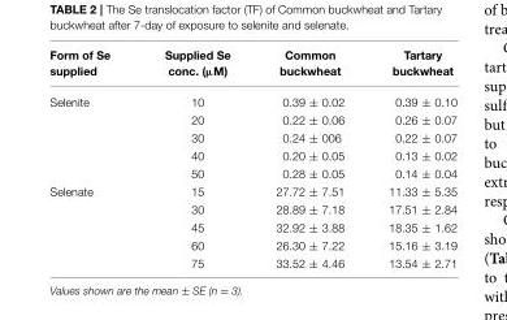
<table><thead><tr><td>Form of Se supplied</td><td>Supplied Se conc. (µM)</td><td>Common buckwheat</td><td>Tartary buckwheat</td></tr></thead><tbody><tr><td rowspan="5">Selenite</td><td>10</td><td>0.39 ± 0.02</td><td>0.39 ± 0.10</td></tr><tr><td>20</td><td>0.22 ± 0.06</td><td>0.26 ± 0.07</td></tr><tr><td>30</td><td>0.24 ± 006</td><td>0.22 ± 0.07</td></tr><tr><td>40</td><td>0.20 ± 0.05</td><td>0.13 ± 0.02</td></tr><tr><td>50</td><td>0.28 ± 0.05</td><td>0.14 ± 0.04</td></tr><tr><td rowspan="5">Selenate</td><td>15</td><td>27.72 ± 7.51</td><td>11.33 ± 5.35</td></tr><tr><td>30</td><td>28.89 ± 7.18</td><td>17.51 ± 2.84</td></tr><tr><td>45</td><td>32.92 ± 3.88</td><td>18.35 ± 1.62</td></tr><tr><td>60</td><td>26.30 ± 7.22</td><td>15.16 ± 3.19</td></tr><tr><td>75</td><td>33.52 ± 4.46</td><td>13.54 ± 2.71</td></tr></tbody></table>